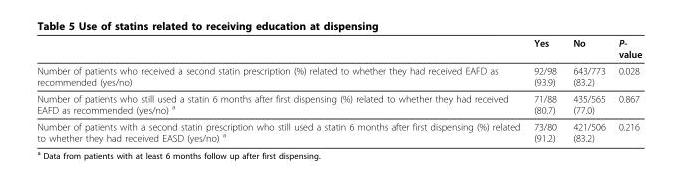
<table><thead><tr><td></td><td>Yes</td><td>No</td><td>P- value</td></tr></thead><tbody><tr><td>Number of patients who received a second statin prescription (%) related to whether they had received EAFD as recommended (yes/no)</td><td>92/98 (93.9)</td><td>643/773 (83.2)</td><td>0.028</td></tr><tr><td>Number of patients who still used a statin 6 months after first dispensing (%) related to whether they had received EAFD as recommended (yes/no) <sup>a</sup></td><td>71/88 (80.7)</td><td>435/565 (77.0)</td><td>0.867</td></tr><tr><td>Number of patients with a second statin prescription who still used a statin 6 months after first dispensing (%) related to whether they had received EASD (yes/no) <sup>a</sup></td><td>73/80 (91.2)</td><td>421/506 (83.2)</td><td>0.216</td></tr></tbody></table>